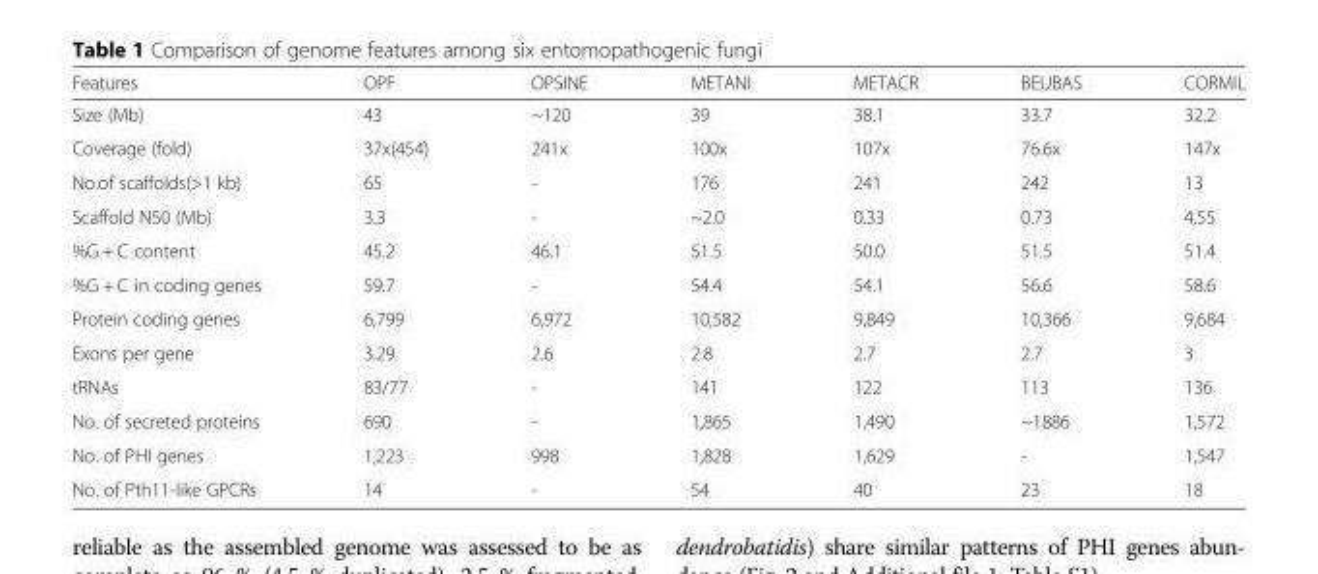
<table><thead><tr><td>Features</td><td>OPF</td><td>OPSINE</td><td>METANI</td><td>METACR</td><td>BEUBAS</td><td>CORMIL</td></tr></thead><tbody><tr><td>Size (Mb)</td><td>43</td><td>~120</td><td>39</td><td>38.1</td><td>33.7</td><td>32.2</td></tr><tr><td>Coverage (fold)</td><td>37x(454)</td><td>241x</td><td>100x</td><td>107x</td><td>76.6x</td><td>147x</td></tr><tr><td>No.of scaffolds(&gt;1 kb)</td><td>65</td><td>-</td><td>176</td><td>241</td><td>242</td><td>13</td></tr><tr><td>Scaffold N50 (Mb)</td><td>3.3</td><td>-</td><td>~2.0</td><td>0.33</td><td>0.73</td><td>4.55</td></tr><tr><td>%G + C content</td><td>45.2</td><td>46.1</td><td>51.5</td><td>50.0</td><td>51.5</td><td>51.4</td></tr><tr><td>%G + C in coding genes</td><td>59.7</td><td>-</td><td>54.4</td><td>54.1</td><td>56.6</td><td>58.6</td></tr><tr><td>Protein coding genes</td><td>6,799</td><td>6,972</td><td>10,582</td><td>9,849</td><td>10,366</td><td>9,684</td></tr><tr><td>Exons per gene</td><td>3.29</td><td>2.6</td><td>2.8</td><td>2.7</td><td>2.7</td><td>3</td></tr><tr><td>tRNAs</td><td>83/77</td><td>-</td><td>141</td><td>122</td><td>113</td><td>136</td></tr><tr><td>No. of secreted proteins</td><td>690</td><td>-</td><td>1,865</td><td>1,490</td><td>~1886</td><td>1,572</td></tr><tr><td>No. of PHI genes</td><td>1,223</td><td>998</td><td>1,828</td><td>1,629</td><td>-</td><td>1,547</td></tr><tr><td>No. of Pth11-like GPCRs</td><td>14</td><td>-</td><td>54</td><td>40</td><td>23</td><td>18</td></tr></tbody></table>